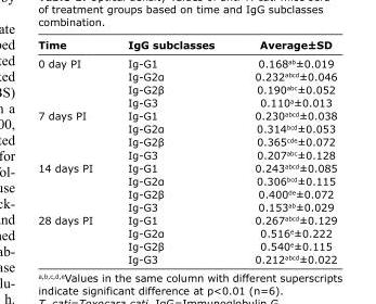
<table><thead><tr><td>Time</td><td>IgG subclasses</td><td>Average±SD</td></tr></thead><tbody><tr><td rowspan="4">0 day PI</td><td>Ig-G1</td><td>0.168<sup>ab</sup>±0.019</td></tr><tr><td>Ig‑G2α</td><td>0.232<sup>abcd</sup>±0.046</td></tr><tr><td>Ig‑G2β</td><td>0.190<sup>abc</sup>±0.052</td></tr><tr><td>Ig-G3</td><td>0.110<sup>a</sup>±0.013</td></tr><tr><td rowspan="4">7 days PI</td><td>Ig-G1</td><td>0.230<sup>abcd</sup>±0.038</td></tr><tr><td>Ig‑G2α</td><td>0.314<sup>bcd</sup>±0.053</td></tr><tr><td>Ig‑G2β</td><td>0.365<sup>cde</sup>±0.072</td></tr><tr><td>Ig-G3</td><td>0.207<sup>abc</sup>±0.128</td></tr><tr><td rowspan="4">14 days PI</td><td>Ig-G1</td><td>0.243<sup>abcd</sup>±0.085</td></tr><tr><td>Ig‑G2α</td><td>0.306<sup>bcd</sup>±0.115</td></tr><tr><td>Ig‑G2β</td><td>0.400<sup>de</sup>±0.072</td></tr><tr><td>Ig-G3</td><td>0.153<sup>ab</sup>±0.029</td></tr><tr><td rowspan="4">28 days PI</td><td>Ig-G1</td><td>0.267<sup>abcd</sup>±0.129</td></tr><tr><td>Ig‑G2α</td><td>0.516<sup>e</sup>±0.222</td></tr><tr><td>Ig‑G2β</td><td>0.540<sup>e</sup>±0.115</td></tr><tr><td>Ig-G3</td><td>0.212<sup>abcd</sup>±0.022</td></tr></tbody></table>